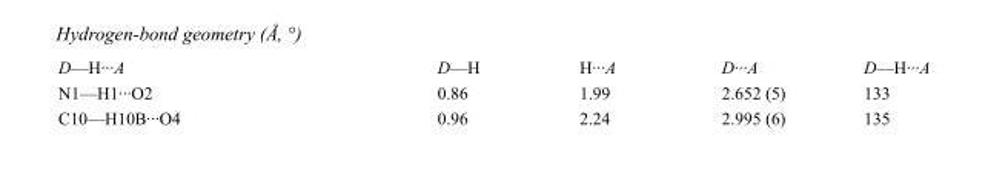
<table><tbody><tr><td>D—H···A</td><td>D—H</td><td>H···A</td><td>D···A</td><td>D—H···A</td></tr><tr><td>N1—H1···O2</td><td>0.86</td><td>1.99</td><td>2.652 (5)</td><td>133</td></tr><tr><td>C10—H10B···O4</td><td>0.96</td><td>2.24</td><td>2.995 (6)</td><td>135</td></tr></tbody></table>